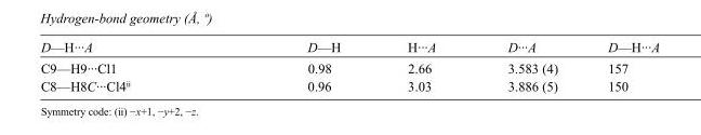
<table><tbody><tr><td>D—H···A</td><td>D—H</td><td>H···A</td><td>D···A</td><td>D—H···A</td></tr><tr><td>C9—H9···Cl1</td><td>0.98</td><td>2.66</td><td>3.583 (4)</td><td>157</td></tr><tr><td>C8—H8C···Cl4<sup>ii</sup></td><td>0.96</td><td>3.03</td><td>3.886 (5)</td><td>150</td></tr></tbody></table>